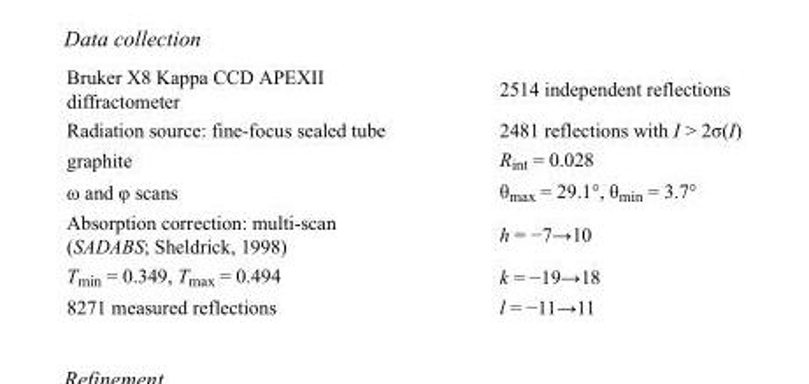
<table><tbody><tr><td>Bruker X8 Kappa CCD APEXII diffractometer</td><td>2514 independent reflections</td></tr><tr><td>Radiation source: fine-focus sealed tube</td><td>2481 reflections with I &gt; 2σ(I)</td></tr><tr><td>graphite</td><td>R<sub>int</sub> = 0.028</td></tr><tr><td>ω and φ scans</td><td>θ<sub>max</sub> = 29.1°, θ<sub>min</sub> = 3.7°</td></tr><tr><td>Absorption correction: multi-scan (SADABS; Sheldrick, 1998)</td><td>h = −7→10</td></tr><tr><td>T<sub>min</sub> = 0.349, T<sub>max</sub> = 0.494</td><td>k = −19→18</td></tr><tr><td>8271 measured reflections</td><td>l = −11→11</td></tr></tbody></table>